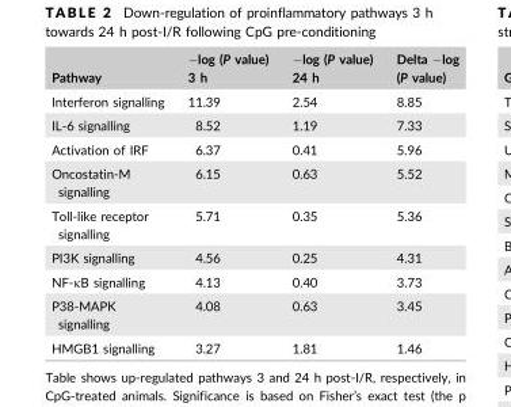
<table><thead><tr><td>Pathway</td><td>−log (P value) 3 h</td><td>−log (P value) 24 h</td><td>Delta −log (P value)</td></tr></thead><tbody><tr><td>Interferon signalling</td><td>11.39</td><td>2.54</td><td>8.85</td></tr><tr><td>IL-6 signalling</td><td>8.52</td><td>1.19</td><td>7.33</td></tr><tr><td>Activation of IRF</td><td>6.37</td><td>0.41</td><td>5.96</td></tr><tr><td>Oncostatin-M signalling</td><td>6.15</td><td>0.63</td><td>5.52</td></tr><tr><td>Toll-like receptor signalling</td><td>5.71</td><td>0.35</td><td>5.36</td></tr><tr><td>PI3K signalling</td><td>4.56</td><td>0.25</td><td>4.31</td></tr><tr><td>NF-κB signalling</td><td>4.13</td><td>0.40</td><td>3.73</td></tr><tr><td>P38-MAPK signalling</td><td>4.08</td><td>0.63</td><td>3.45</td></tr><tr><td>HMGB1 signalling</td><td>3.27</td><td>1.81</td><td>1.46</td></tr></tbody></table>